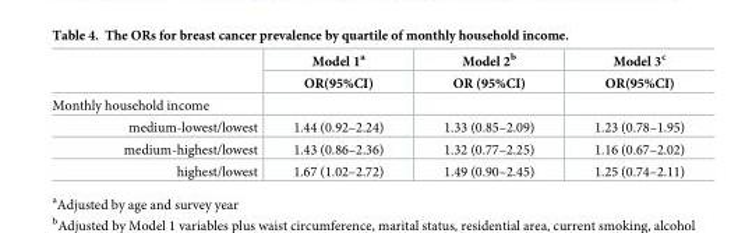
<table><thead><tr><td rowspan="2"></td><td rowspan="2">Model 1<sup>a</sup> OR(95%CI)</td><td rowspan="2">Model 2<sup>b</sup> OR (95%CI)</td><td rowspan="2">Model 3<sup>c</sup> OR(95%CI)</td></tr><tr></tr></thead><tbody><tr><td colspan="4">Monthly household income</td></tr><tr><td>medium-lowest/lowest</td><td>1.44 (0.92–2.24)</td><td>1.33 (0.85–2.09)</td><td>1.23 (0.78–1.95)</td></tr><tr><td>medium-highest/lowest</td><td>1.43 (0.86–2.36)</td><td>1.32 (0.77–2.25)</td><td>1.16 (0.67–2.02)</td></tr><tr><td>highest/lowest</td><td>1.67 (1.02–2.72)</td><td>1.49 (0.90–2.45)</td><td>1.25 (0.74–2.11)</td></tr></tbody></table>